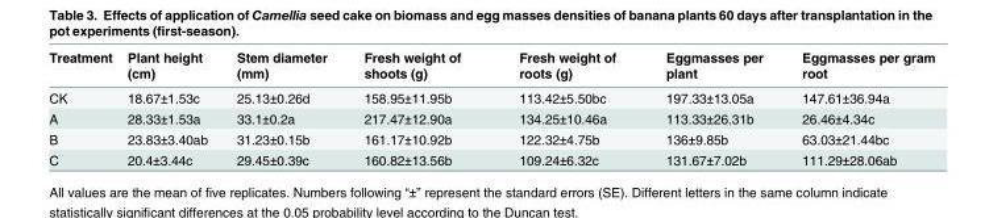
<table><thead><tr><td>Treatment</td><td>Plant height (cm)</td><td>Stem diameter (mm)</td><td>Fresh weight of shoots (g)</td><td>Fresh weight of roots (g)</td><td>Eggmasses per plant</td><td>Eggmasses per gram root</td></tr></thead><tbody><tr><td>CK</td><td>18.67±1.53c</td><td>25.13±0.26d</td><td>158.95±11.95b</td><td>113.42±5.50bc</td><td>197.33±13.05a</td><td>147.61±36.94a</td></tr><tr><td>A</td><td>28.33±1.53a</td><td>33.1±0.2a</td><td>217.47±12.90a</td><td>134.25±10.46a</td><td>113.33±26.31b</td><td>26.46±4.34c</td></tr><tr><td>B</td><td>23.83±3.40ab</td><td>31.23±0.15b</td><td>161.17±10.92b</td><td>122.32±4.75b</td><td>136±9.85b</td><td>63.03±21.44bc</td></tr><tr><td>C</td><td>20.4±3.44c</td><td>29.45±0.39c</td><td>160.82±13.56b</td><td>109.24±6.32c</td><td>131.67±7.02b</td><td>111.29±28.06ab</td></tr></tbody></table>